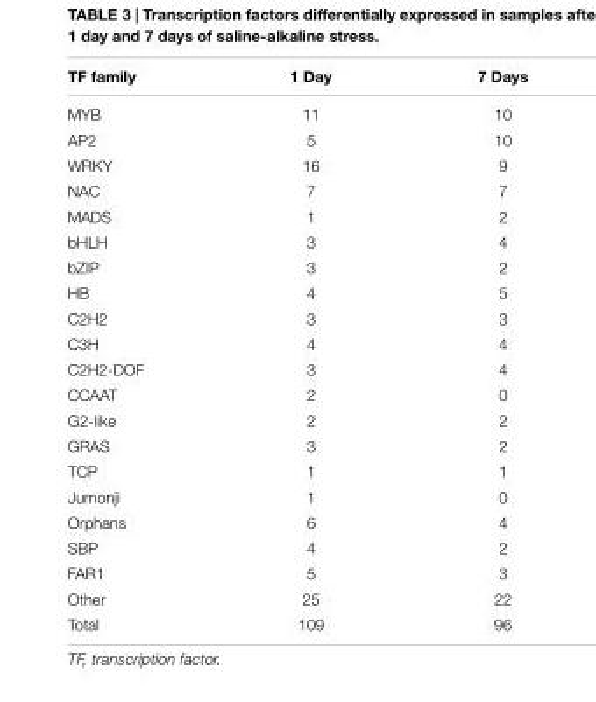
<table><thead><tr><td>TF family</td><td>1 Day</td><td>7 Days</td></tr></thead><tbody><tr><td>MYB</td><td>11</td><td>10</td></tr><tr><td>AP2</td><td>5</td><td>10</td></tr><tr><td>WRKY</td><td>16</td><td>9</td></tr><tr><td>NAC</td><td>7</td><td>7</td></tr><tr><td>MADS</td><td>1</td><td>2</td></tr><tr><td>bHLH</td><td>3</td><td>4</td></tr><tr><td>bZIP</td><td>3</td><td>2</td></tr><tr><td>HB</td><td>4</td><td>5</td></tr><tr><td>C2H2</td><td>3</td><td>3</td></tr><tr><td>C3H</td><td>4</td><td>4</td></tr><tr><td>C2H2-DOF</td><td>3</td><td>4</td></tr><tr><td>CCAAT</td><td>2</td><td>0</td></tr><tr><td>G2-like</td><td>2</td><td>2</td></tr><tr><td>GRAS</td><td>3</td><td>2</td></tr><tr><td>TCP</td><td>1</td><td>1</td></tr><tr><td>Jumonji</td><td>1</td><td>0</td></tr><tr><td>Orphans</td><td>6</td><td>4</td></tr><tr><td>SBP</td><td>4</td><td>2</td></tr><tr><td>FAR1</td><td>5</td><td>3</td></tr><tr><td>Other</td><td>25</td><td>22</td></tr><tr><td>Total</td><td>109</td><td>96</td></tr></tbody></table>